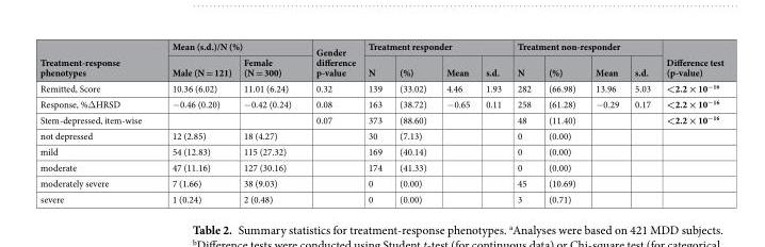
<table><thead><tr><td rowspan="2">Treatment-response phenotypes</td><td colspan="2">Mean (s.d.)/N (%)</td><td rowspan="2">Gender difference p-value</td><td colspan="4">Treatment responder</td><td colspan="4">Treatment non-responder</td><td rowspan="2">Difference test (p-value)</td></tr><tr><td>Male (N = 121)</td><td>Female (N = 300)</td><td>N</td><td>(%)</td><td>Mean</td><td>s.d.</td><td>N</td><td>(%)</td><td>Mean</td><td>s.d.</td></tr></thead><tbody><tr><td>Remitted, Score</td><td>10.36 (6.02)</td><td>11.01 (6.24)</td><td>0.32</td><td>139</td><td>(33.02)</td><td>4.46</td><td>1.93</td><td>282</td><td>(66.98)</td><td>13.96</td><td>5.03</td><td>&lt;2.2 × 10<sup>−16</sup></td></tr><tr><td>Response, %ΔHRSD</td><td>−0.46 (0.20)</td><td>−0.42 (0.24)</td><td>0.08</td><td>163</td><td>(38.72)</td><td>−0.65</td><td>0.11</td><td>258</td><td>(61.28)</td><td>−0.29</td><td>0.17</td><td>&lt;2.2 × 10<sup>−16</sup></td></tr><tr><td>Stem-depressed, item-wise</td><td></td><td></td><td>0.07</td><td>373</td><td>(88.60)</td><td></td><td></td><td>48</td><td>(11.40)</td><td></td><td></td><td>&lt;2.2 × 10<sup>−16</sup></td></tr><tr><td>not depressed</td><td>12 (2.85)</td><td>18 (4.27)</td><td></td><td>30</td><td>(7.13)</td><td></td><td></td><td>0</td><td>(0.00)</td><td></td><td></td><td></td></tr><tr><td>mild</td><td>54 (12.83)</td><td>115 (27.32)</td><td></td><td>169</td><td>(40.14)</td><td></td><td></td><td>0</td><td>(0.00)</td><td></td><td></td><td></td></tr><tr><td>moderate</td><td>47 (11.16)</td><td>127 (30.16)</td><td></td><td>174</td><td>(41.33)</td><td></td><td></td><td>0</td><td>(0.00)</td><td></td><td></td><td></td></tr><tr><td>moderately severe</td><td>7 (1.66)</td><td>38 (9.03)</td><td></td><td>0</td><td>(0.00)</td><td></td><td></td><td>45</td><td>(10.69)</td><td></td><td></td><td></td></tr><tr><td>severe</td><td>1 (0.24)</td><td>2 (0.48)</td><td></td><td>0</td><td>(0.00)</td><td></td><td></td><td>3</td><td>(0.71)</td><td></td><td></td><td></td></tr></tbody></table>